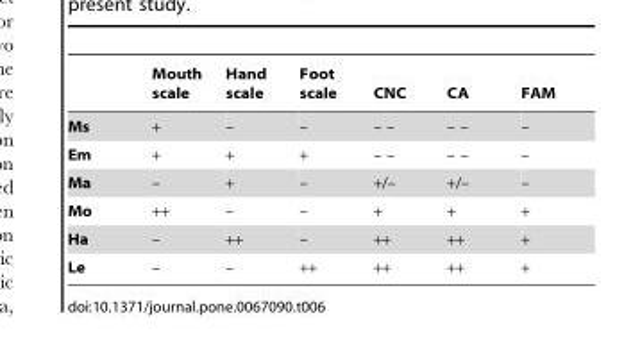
<table><thead><tr><td></td><td>Mouth scale</td><td>Hand scale</td><td>Foot scale</td><td>CNC</td><td>CA</td><td>FAM</td></tr></thead><tbody><tr><td>Ms</td><td>+</td><td>–</td><td>–</td><td>– –</td><td>– –</td><td>–</td></tr><tr><td>Em</td><td>+</td><td>+</td><td>+</td><td>– –</td><td>– –</td><td>–</td></tr><tr><td>Ma</td><td>–</td><td>+</td><td>–</td><td>+/–</td><td>+/–</td><td>–</td></tr><tr><td>Mo</td><td>++</td><td>–</td><td>–</td><td>+</td><td>+</td><td>+</td></tr><tr><td>Ha</td><td>–</td><td>++</td><td>–</td><td>++</td><td>++</td><td>+</td></tr><tr><td>Le</td><td>–</td><td>–</td><td>++</td><td>++</td><td>++</td><td>+</td></tr></tbody></table>